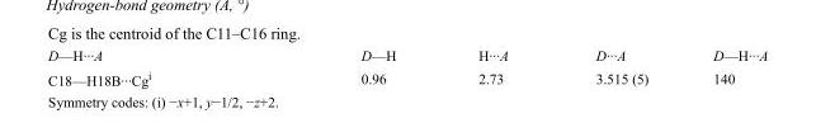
<table><tbody><tr><td>D—H···A</td><td>D—H</td><td>H···A</td><td>D···A</td><td>D—H···A</td></tr><tr><td>C18—H18B···Cg<sup>i</sup></td><td>0.96</td><td>2.73</td><td>3.515 (5)</td><td>140</td></tr></tbody></table>